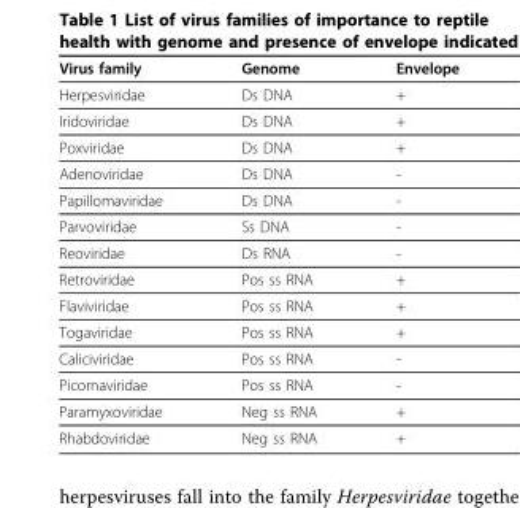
<table><thead><tr><td>Virus family</td><td>Genome</td><td>Envelope</td></tr></thead><tbody><tr><td>Herpesviridae</td><td>Ds DNA</td><td>+</td></tr><tr><td>Iridoviridae</td><td>Ds DNA</td><td>+</td></tr><tr><td>Poxviridae</td><td>Ds DNA</td><td>+</td></tr><tr><td>Adenoviridae</td><td>Ds DNA</td><td>-</td></tr><tr><td>Papillomaviridae</td><td>Ds DNA</td><td>-</td></tr><tr><td>Parvoviridae</td><td>Ss DNA</td><td>-</td></tr><tr><td>Reoviridae</td><td>Ds RNA</td><td>-</td></tr><tr><td>Retroviridae</td><td>Pos ss RNA</td><td>+</td></tr><tr><td>Flaviviridae</td><td>Pos ss RNA</td><td>+</td></tr><tr><td>Togaviridae</td><td>Pos ss RNA</td><td>+</td></tr><tr><td>Caliciviridae</td><td>Pos ss RNA</td><td>-</td></tr><tr><td>Picornaviridae</td><td>Pos ss RNA</td><td>-</td></tr><tr><td>Paramyxoviridae</td><td>Neg ss RNA</td><td>+</td></tr><tr><td>Rhabdoviridae</td><td>Neg ss RNA</td><td>+</td></tr></tbody></table>